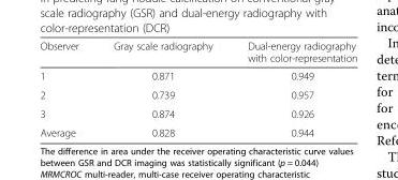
<table><thead><tr><td>Observer</td><td>Gray scale radiography</td><td>Dual-energy radiography with color-representation</td></tr></thead><tbody><tr><td>1</td><td>0.871</td><td>0.949</td></tr><tr><td>2</td><td>0.739</td><td>0.957</td></tr><tr><td>3</td><td>0.874</td><td>0.926</td></tr><tr><td>Average</td><td>0.828</td><td>0.944</td></tr></tbody></table>